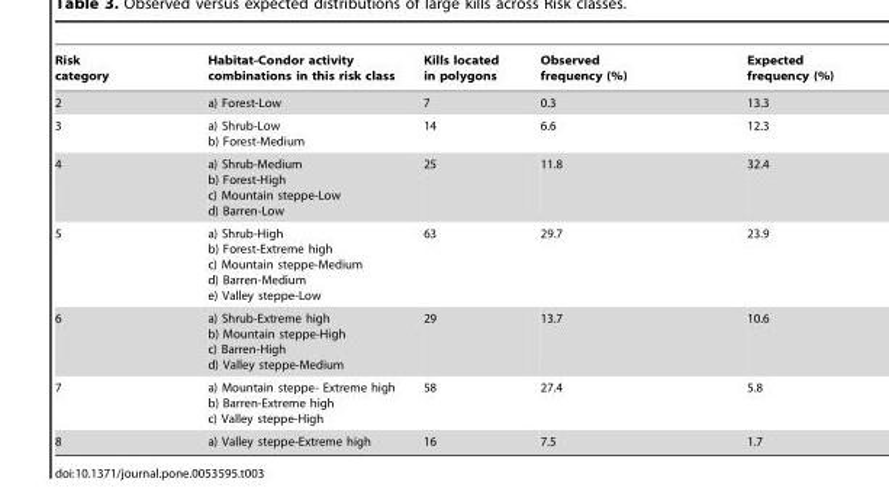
<table><thead><tr><td>Risk category</td><td>Habitat-Condor activity combinations in this risk class</td><td>Kills located in polygons</td><td>Observed frequency (%)</td><td>Expected frequency (%)</td></tr></thead><tbody><tr><td>2</td><td>a) Forest-Low</td><td>7</td><td>0.3</td><td>13.3</td></tr><tr><td>3</td><td>a) Shrub-Low b) Forest-Medium</td><td>14</td><td>6.6</td><td>12.3</td></tr><tr><td>4</td><td>a) Shrub-Medium b) Forest-High c) Mountain steppe-Low d) Barren-Low</td><td>25</td><td>11.8</td><td>32.4</td></tr><tr><td>5</td><td>a) Shrub-High b) Forest-Extreme high c) Mountain steppe-Medium d) Barren-Medium e) Valley steppe-Low</td><td>63</td><td>29.7</td><td>23.9</td></tr><tr><td>6</td><td>a) Shrub-Extreme high b) Mountain steppe-High c) Barren-High d) Valley steppe-Medium</td><td>29</td><td>13.7</td><td>10.6</td></tr><tr><td>7</td><td>a) Mountain steppe- Extreme high b) Barren-Extreme high c) Valley steppe-High</td><td>58</td><td>27.4</td><td>5.8</td></tr><tr><td>8</td><td>a) Valley steppe-Extreme high</td><td>16</td><td>7.5</td><td>1.7</td></tr></tbody></table>